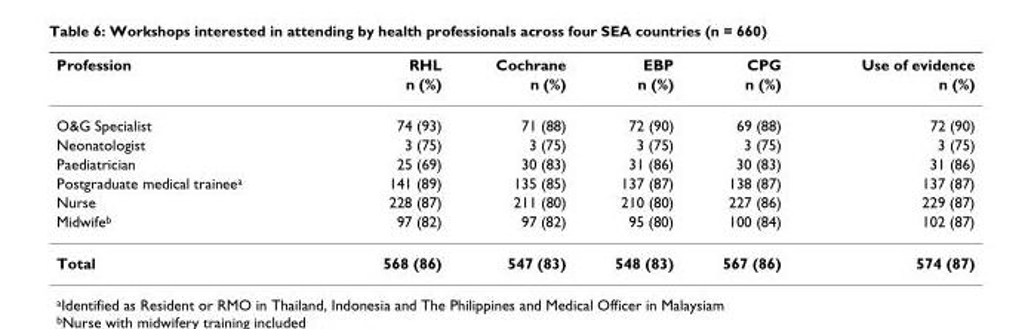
<table><thead><tr><td rowspan="2">Profession</td><td rowspan="2">RHL n (%)</td><td rowspan="2">Cochrane n (%)</td><td rowspan="2">EBP n (%)</td><td rowspan="2">CPG n (%)</td><td rowspan="2">Use of evidence n (%)</td></tr><tr></tr></thead><tbody><tr><td>O&amp;G Specialist</td><td>74 (93)</td><td>71 (88)</td><td>72 (90)</td><td>69 (88)</td><td>72 (90)</td></tr><tr><td>Neonatologist</td><td>3 (75)</td><td>3 (75)</td><td>3 (75)</td><td>3 (75)</td><td>3 (75)</td></tr><tr><td>Paediatrician</td><td>25 (69)</td><td>30 (83)</td><td>31 (86)</td><td>30 (83)</td><td>31 (86)</td></tr><tr><td>Postgraduate medical trainee<sup>a</sup></td><td>141 (89)</td><td>135 (85)</td><td>137 (87)</td><td>138 (87)</td><td>137 (87)</td></tr><tr><td>Nurse</td><td>228 (87)</td><td>211 (80)</td><td>210 (80)</td><td>227 (86)</td><td>229 (87)</td></tr><tr><td>Midwife<sup>b</sup></td><td>97 (82)</td><td>97 (82)</td><td>95 (80)</td><td>100 (84)</td><td>102 (87)</td></tr><tr><td>Total</td><td>568 (86)</td><td>547 (83)</td><td>548 (83)</td><td>567 (86)</td><td>574 (87)</td></tr></tbody></table>